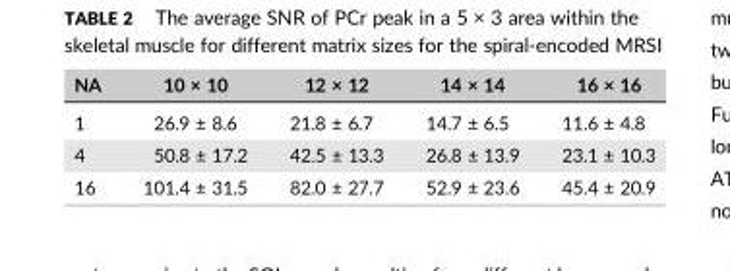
<table><thead><tr><td>NA</td><td>10 × 10</td><td>12 × 12</td><td>14 × 14</td><td>16 × 16</td></tr></thead><tbody><tr><td>1</td><td>26.9 ± 8.6</td><td>21.8 ± 6.7</td><td>14.7 ± 6.5</td><td>11.6 ± 4.8</td></tr><tr><td>4</td><td>50.8 ± 17.2</td><td>42.5 ± 13.3</td><td>26.8 ± 13.9</td><td>23.1 ± 10.3</td></tr><tr><td>16</td><td>101.4 ± 31.5</td><td>82.0 ± 27.7</td><td>52.9 ± 23.6</td><td>45.4 ± 20.9</td></tr></tbody></table>